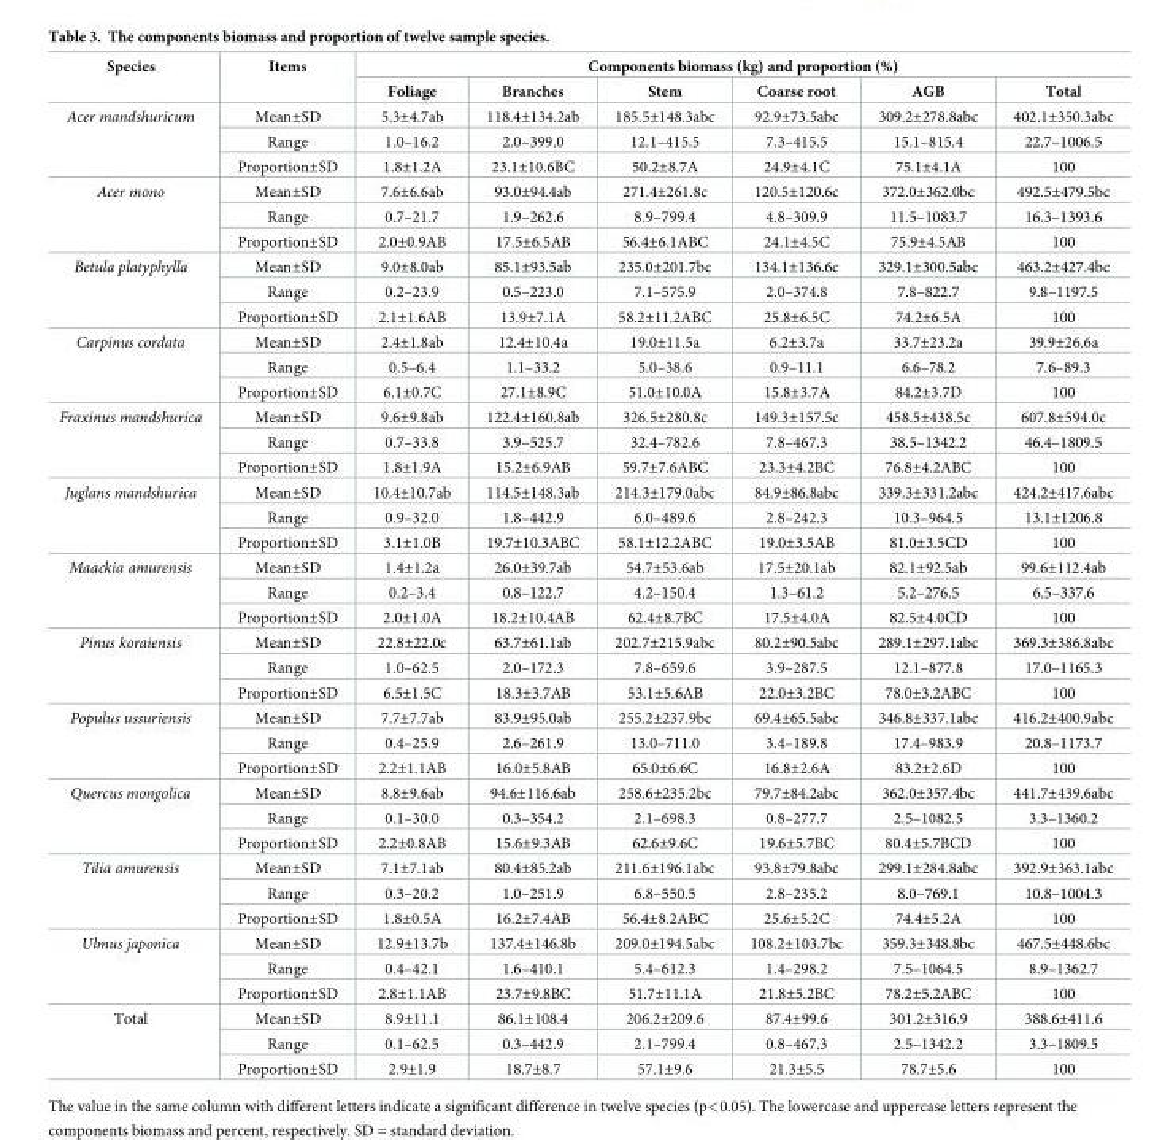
<table><thead><tr><td rowspan="2">Species</td><td rowspan="2">Items</td><td colspan="6">Components biomass (kg) and proportion (%)</td></tr><tr><td>Foliage</td><td>Branches</td><td>Stem</td><td>Coarse root</td><td>AGB</td><td>Total</td></tr></thead><tbody><tr><td rowspan="3">Acer mandshuricum</td><td>Mean±SD</td><td>5.3±4.7ab</td><td>118.4±134.2ab</td><td>185.5±148.3abc</td><td>92.9±73.5abc</td><td>309.2±278.8abc</td><td>402.1±350.3abc</td></tr><tr><td>Range</td><td>1.0–16.2</td><td>2.0–399.0</td><td>12.1–415.5</td><td>7.3–415.5</td><td>15.1–815.4</td><td>22.7–1006.5</td></tr><tr><td>Proportion±SD</td><td>1.8±1.2A</td><td>23.1±10.6BC</td><td>50.2±8.7A</td><td>24.9±4.1C</td><td>75.1±4.1A</td><td>100</td></tr><tr><td rowspan="3">Acer mono</td><td>Mean±SD</td><td>7.6±6.6ab</td><td>93.0±94.4ab</td><td>271.4±261.8c</td><td>120.5±120.6c</td><td>372.0±362.0bc</td><td>492.5±479.5bc</td></tr><tr><td>Range</td><td>0.7–21.7</td><td>1.9–262.6</td><td>8.9–799.4</td><td>4.8–309.9</td><td>11.5–1083.7</td><td>16.3–1393.6</td></tr><tr><td>Proportion±SD</td><td>2.0±0.9AB</td><td>17.5±6.5AB</td><td>56.4±6.1ABC</td><td>24.1±4.5C</td><td>75.9±4.5AB</td><td>100</td></tr><tr><td rowspan="3">Betula platyphylla</td><td>Mean±SD</td><td>9.0±8.0ab</td><td>85.1±93.5ab</td><td>235.0±201.7bc</td><td>134.1±136.6c</td><td>329.1±300.5abc</td><td>463.2±427.4bc</td></tr><tr><td>Range</td><td>0.2–23.9</td><td>0.5–223.0</td><td>7.1–575.9</td><td>2.0–374.8</td><td>7.8–822.7</td><td>9.8–1197.5</td></tr><tr><td>Proportion±SD</td><td>2.1±1.6AB</td><td>13.9±7.1A</td><td>58.2±11.2ABC</td><td>25.8±6.5C</td><td>74.2±6.5A</td><td>100</td></tr><tr><td rowspan="3">Carpinus cordata</td><td>Mean±SD</td><td>2.4±1.8ab</td><td>12.4±10.4a</td><td>19.0±11.5a</td><td>6.2±3.7a</td><td>33.7±23.2a</td><td>39.9±26.6a</td></tr><tr><td>Range</td><td>0.5–6.4</td><td>1.1–33.2</td><td>5.0–38.6</td><td>0.9–11.1</td><td>6.6–78.2</td><td>7.6–89.3</td></tr><tr><td>Proportion±SD</td><td>6.1±0.7C</td><td>27.1±8.9C</td><td>51.0±10.0A</td><td>15.8±3.7A</td><td>84.2±3.7D</td><td>100</td></tr><tr><td rowspan="3">Fraxinus mandshurica</td><td>Mean±SD</td><td>9.6±9.8ab</td><td>122.4±160.8ab</td><td>326.5±280.8c</td><td>149.3±157.5c</td><td>458.5±438.5c</td><td>607.8±594.0c</td></tr><tr><td>Range</td><td>0.7–33.8</td><td>3.9–525.7</td><td>32.4–782.6</td><td>7.8–467.3</td><td>38.5–1342.2</td><td>46.4–1809.5</td></tr><tr><td>Proportion±SD</td><td>1.8±1.9A</td><td>15.2±6.9AB</td><td>59.7±7.6ABC</td><td>23.3±4.2BC</td><td>76.8±4.2ABC</td><td>100</td></tr><tr><td rowspan="3">Juglans mandshurica</td><td>Mean±SD</td><td>10.4±10.7ab</td><td>114.5±148.3ab</td><td>214.3±179.0abc</td><td>84.9±86.8abc</td><td>339.3±331.2abc</td><td>424.2±417.6abc</td></tr><tr><td>Range</td><td>0.9–32.0</td><td>1.8–442.9</td><td>6.0–489.6</td><td>2.8–242.3</td><td>10.3–964.5</td><td>13.1±1206.8</td></tr><tr><td>Proportion±SD</td><td>3.1±1.0B</td><td>19.7±10.3ABC</td><td>58.1±12.2ABC</td><td>19.0±3.5AB</td><td>81.0±3.5CD</td><td>100</td></tr><tr><td rowspan="3">Maackia amurensis</td><td>Mean±SD</td><td>1.4±1.2a</td><td>26.0±39.7ab</td><td>54.7±53.6ab</td><td>17.5±20.1ab</td><td>82.1±92.5ab</td><td>99.6±112.4ab</td></tr><tr><td>Range</td><td>0.2–3.4</td><td>0.8–122.7</td><td>4.2–150.4</td><td>1.3–61.2</td><td>5.2–276.5</td><td>6.5–337.6</td></tr><tr><td>Proportion±SD</td><td>2.0±1.0A</td><td>18.2±10.4AB</td><td>62.4±8.7BC</td><td>17.5±4.0A</td><td>82.5±4.0CD</td><td>100</td></tr><tr><td rowspan="3">Pinus koraiensis</td><td>Mean±SD</td><td>22.8±22.0c</td><td>63.7±61.1ab</td><td>202.7±215.9abc</td><td>80.2±90.5abc</td><td>289.1±297.1abc</td><td>369.3±386.8abc</td></tr><tr><td>Range</td><td>1.0–62.5</td><td>2.0–172.3</td><td>7.8–659.6</td><td>3.9–287.5</td><td>12.1–877.8</td><td>17.0–1165.3</td></tr><tr><td>Proportion±SD</td><td>6.5±1.5C</td><td>18.3±3.7AB</td><td>53.1±5.6AB</td><td>22.0±3.2BC</td><td>78.0±3.2ABC</td><td>100</td></tr><tr><td rowspan="3">Populus ussuriensis</td><td>Mean±SD</td><td>7.7±7.7ab</td><td>83.9±95.0ab</td><td>255.2±237.9bc</td><td>69.4±65.5abc</td><td>346.8±337.1abc</td><td>416.2±400.9abc</td></tr><tr><td>Range</td><td>0.4–25.9</td><td>2.6–261.9</td><td>13.0–711.0</td><td>3.4–189.8</td><td>17.4–983.9</td><td>20.8–1173.7</td></tr><tr><td>Proportion±SD</td><td>2.2±1.1AB</td><td>16.0±5.8AB</td><td>65.0±6.6C</td><td>16.8±2.6A</td><td>83.2±2.6D</td><td>100</td></tr><tr><td rowspan="3">Quercus mongolica</td><td>Mean±SD</td><td>8.8±9.6ab</td><td>94.6±116.6ab</td><td>258.6±235.2bc</td><td>79.7±84.2abc</td><td>362.0±357.4bc</td><td>441.7±439.6abc</td></tr><tr><td>Range</td><td>0.1–30.0</td><td>0.3–354.2</td><td>2.1–698.3</td><td>0.8–277.7</td><td>2.5–1082.5</td><td>3.3–1360.2</td></tr><tr><td>Proportion±SD</td><td>2.2±0.8AB</td><td>15.6±9.3AB</td><td>62.6±9.6C</td><td>19.6±5.7BC</td><td>80.4±5.7BCD</td><td>100</td></tr><tr><td rowspan="3">Tilia amurensis</td><td>Mean±SD</td><td>7.1±7.1ab</td><td>80.4±85.2ab</td><td>211.6±196.1abc</td><td>93.8±79.8abc</td><td>299.1±284.8abc</td><td>392.9±363.1abc</td></tr><tr><td>Range</td><td>0.3–20.2</td><td>1.0–251.9</td><td>6.8–550.5</td><td>2.8–235.2</td><td>8.0–769.1</td><td>10.8–1004.3</td></tr><tr><td>Proportion±SD</td><td>1.8±0.5A</td><td>16.2±7.4AB</td><td>56.4±8.2ABC</td><td>25.6±5.2C</td><td>74.4±5.2A</td><td>100</td></tr><tr><td rowspan="3">Ulmus japonica</td><td>Mean±SD</td><td>12.9±13.7b</td><td>137.4±146.8b</td><td>209.0±194.5abc</td><td>108.2±103.7bc</td><td>359.3±348.8bc</td><td>467.5±448.6bc</td></tr><tr><td>Range</td><td>0.4–42.1</td><td>1.6–410.1</td><td>5.4–612.3</td><td>1.4–298.2</td><td>7.5–1064.5</td><td>8.9–1362.7</td></tr><tr><td>Proportion±SD</td><td>2.8±1.1AB</td><td>23.7±9.8BC</td><td>51.7±11.1A</td><td>21.8±5.2BC</td><td>78.2±5.2ABC</td><td>100</td></tr><tr><td rowspan="3">Total</td><td>Mean±SD</td><td>8.9±11.1</td><td>86.1±108.4</td><td>206.2±209.6</td><td>87.4±99.6</td><td>301.2±316.9</td><td>388.6±411.6</td></tr><tr><td>Range</td><td>0.1–62.5</td><td>0.3–442.9</td><td>2.1–799.4</td><td>0.8–467.3</td><td>2.5–1342.2</td><td>3.3–1809.5</td></tr><tr><td>Proportion±SD</td><td>2.9±1.9</td><td>18.7±8.7</td><td>57.1±9.6</td><td>21.3±5.5</td><td>78.7±5.6</td><td>100</td></tr></tbody></table>